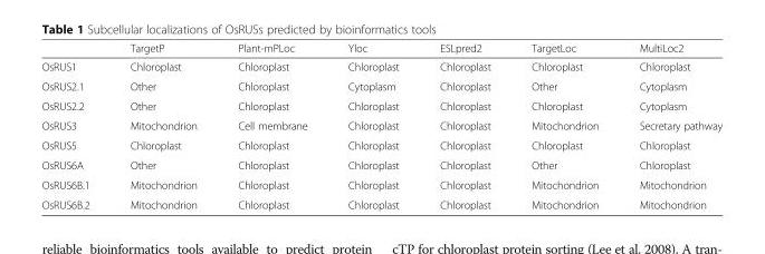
<table><thead><tr><td></td><td>TargetP</td><td>Plant-mPLoc</td><td>Yloc</td><td>ESLpred2</td><td>TargetLoc</td><td>MultiLoc2</td></tr></thead><tbody><tr><td>OsRUS1</td><td>Chloroplast</td><td>Chloroplast</td><td>Chloroplast</td><td>Chloroplast</td><td>Chloroplast</td><td>Chloroplast</td></tr><tr><td>OsRUS2.1</td><td>Other</td><td>Chloroplast</td><td>Cytoplasm</td><td>Chloroplast</td><td>Other</td><td>Cytoplasm</td></tr><tr><td>OsRUS2.2</td><td>Other</td><td>Chloroplast</td><td>Chloroplast</td><td>Chloroplast</td><td>Chloroplast</td><td>Cytoplasm</td></tr><tr><td>OsRUS3</td><td>Mitochondrion</td><td>Cell membrane</td><td>Chloroplast</td><td>Chloroplast</td><td>Mitochondrion</td><td>Secretary pathway</td></tr><tr><td>OsRUS5</td><td>Chloroplast</td><td>Chloroplast</td><td>Chloroplast</td><td>Chloroplast</td><td>Chloroplast</td><td>Chloroplast</td></tr><tr><td>OsRUS6A</td><td>Other</td><td>Chloroplast</td><td>Chloroplast</td><td>Chloroplast</td><td>Other</td><td>Chloroplast</td></tr><tr><td>OsRUS6B.1</td><td>Mitochondrion</td><td>Chloroplast</td><td>Chloroplast</td><td>Chloroplast</td><td>Mitochondrion</td><td>Mitochondrion</td></tr><tr><td>OsRUS6B.2</td><td>Mitochondrion</td><td>Chloroplast</td><td>Chloroplast</td><td>Chloroplast</td><td>Mitochondrion</td><td>Mitochondrion</td></tr></tbody></table>